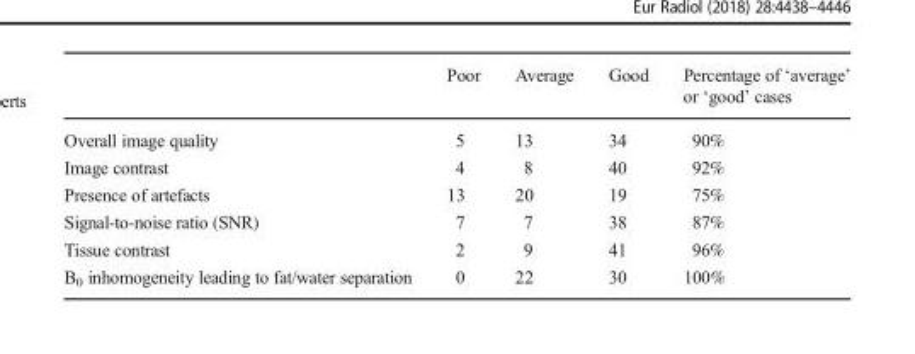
<table><thead><tr><td></td><td>Poor</td><td>Average</td><td>Good</td><td>Percentage of ‘average’ or ‘good’ cases</td></tr></thead><tbody><tr><td>Overall image quality</td><td>5</td><td>13</td><td>34</td><td>90%</td></tr><tr><td>Image contrast</td><td>4</td><td>8</td><td>40</td><td>92%</td></tr><tr><td>Presence of artefacts</td><td>13</td><td>20</td><td>19</td><td>75%</td></tr><tr><td>Signal-to-noise ratio (SNR)</td><td>7</td><td>7</td><td>38</td><td>87%</td></tr><tr><td>Tissue contrast</td><td>2</td><td>9</td><td>41</td><td>96%</td></tr><tr><td>B<sub>0</sub> inhomogeneity leading to fat/water separation</td><td>0</td><td>22</td><td>30</td><td>100%</td></tr></tbody></table>